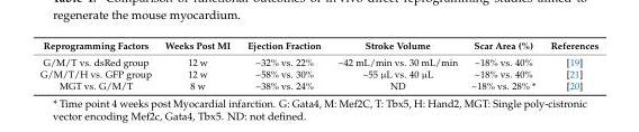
<table><thead><tr><td>Reprogramming Factors</td><td>Weeks Post MI</td><td>Ejection Fraction</td><td>Stroke Volume</td><td>Scar Area (%)</td><td>References</td></tr></thead><tbody><tr><td>G/M/T vs. dsRed group</td><td>12 w</td><td>~32% vs. 22%</td><td>~42 mL/min vs. 30 mL/min</td><td>~18% vs. 40%</td><td>[19]</td></tr><tr><td>G/M/T/H vs. GFP group</td><td>12 w</td><td>~58% vs. 30%</td><td>~55 µL vs. 40 µL</td><td>~18% vs. 40%</td><td>[21]</td></tr><tr><td>MGT vs. G/M/T</td><td>8 w</td><td>~38% vs. 24%</td><td>ND</td><td>~18% vs. 28% *</td><td>[20]</td></tr></tbody></table>